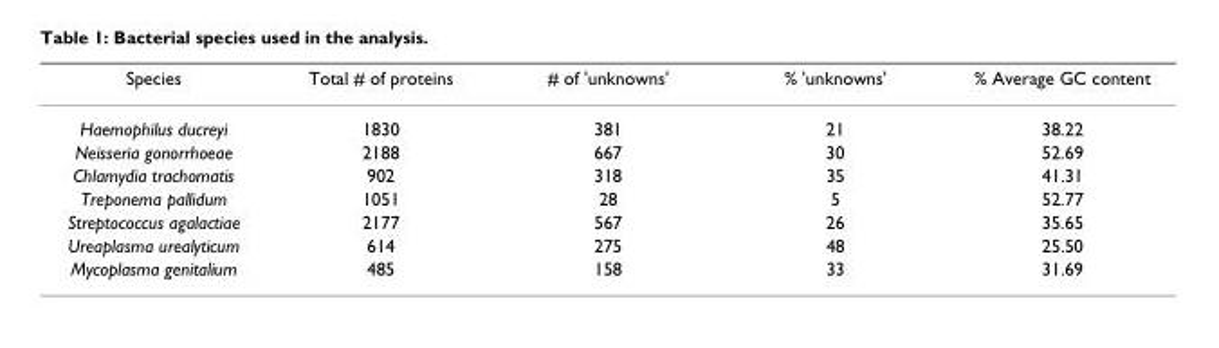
<table><thead><tr><td>Species</td><td>Total # of proteins</td><td># of &#x27;unknowns&#x27;</td><td>% &#x27;unknowns&#x27;</td><td>% Average GC content</td></tr></thead><tbody><tr><td>Haemophilus ducreyi</td><td>1830</td><td>381</td><td>21</td><td>38.22</td></tr><tr><td>Neisseria gonorrhoeae</td><td>2188</td><td>667</td><td>30</td><td>52.69</td></tr><tr><td>Chlamydia trachomatis</td><td>902</td><td>318</td><td>35</td><td>41.31</td></tr><tr><td>Treponema pallidum</td><td>1051</td><td>28</td><td>5</td><td>52.77</td></tr><tr><td>Streptococcus agalactiae</td><td>2177</td><td>567</td><td>26</td><td>35.65</td></tr><tr><td>Ureaplasma urealyticum</td><td>614</td><td>275</td><td>48</td><td>25.50</td></tr><tr><td>Mycoplasma genitalium</td><td>485</td><td>158</td><td>33</td><td>31.69</td></tr></tbody></table>